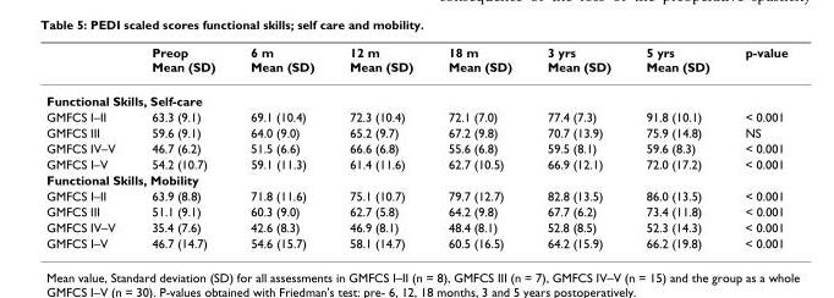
<table><thead><tr><td></td><td>Preop Mean (SD)</td><td>6 m Mean (SD)</td><td>12 m Mean (SD)</td><td>18 m Mean (SD)</td><td>3 yrs Mean (SD)</td><td>5 yrs Mean (SD)</td><td>p-value</td></tr></thead><tbody><tr><td colspan="8">Functional Skills, Self-care</td></tr><tr><td>GMFCS I–II</td><td>63.3 (9.1)</td><td>69.1 (10.4)</td><td>72.3 (10.4)</td><td>72.1 (7.0)</td><td>77.4 (7.3)</td><td>91.8 (10.1)</td><td>&lt; 0.001</td></tr><tr><td>GMFCS III</td><td>59.6 (9.1)</td><td>64.0 (9.0)</td><td>65.2 (9.7)</td><td>67.2 (9.8)</td><td>70.7 (13.9)</td><td>75.9 (14.8)</td><td>NS</td></tr><tr><td>GMFCS IV–V</td><td>46.7 (6.2)</td><td>51.5 (6.6)</td><td>66.6 (6.8)</td><td>55.6 (6.8)</td><td>59.5 (8.1)</td><td>59.6 (8.3)</td><td>&lt; 0.001</td></tr><tr><td>GMFCS I–V</td><td>54.2 (10.7)</td><td>59.1 (11.3)</td><td>61.4 (11.6)</td><td>62.7 (10.5)</td><td>66.9 (12.1)</td><td>72.0 (17.2)</td><td>&lt; 0.001</td></tr><tr><td colspan="8">Functional Skills, Mobility</td></tr><tr><td>GMFCS I–II</td><td>63.9 (8.8)</td><td>71.8 (11.6)</td><td>75.1 (10.7)</td><td>79.7 (12.7)</td><td>82.8 (13.5)</td><td>86.0 (13.5)</td><td>&lt; 0.001</td></tr><tr><td>GMFCS III</td><td>51.1 (9.1)</td><td>60.3 (9.0)</td><td>62.7 (5.8)</td><td>64.2 (9.8)</td><td>67.7 (6.2)</td><td>73.4 (11.8)</td><td>&lt; 0.001</td></tr><tr><td>GMFCS IV–V</td><td>35.4 (7.6)</td><td>42.6 (8.3)</td><td>46.9 (8.1)</td><td>48.4 (8.1)</td><td>52.8 (8.5)</td><td>52.3 (14.3)</td><td>&lt; 0.001</td></tr><tr><td>GMFCS I–V</td><td>46.7 (14.7)</td><td>54.6 (15.7)</td><td>58.1 (14.7)</td><td>60.5 (16.5)</td><td>64.2 (15.9)</td><td>66.2 (19.8)</td><td>&lt; 0.001</td></tr></tbody></table>